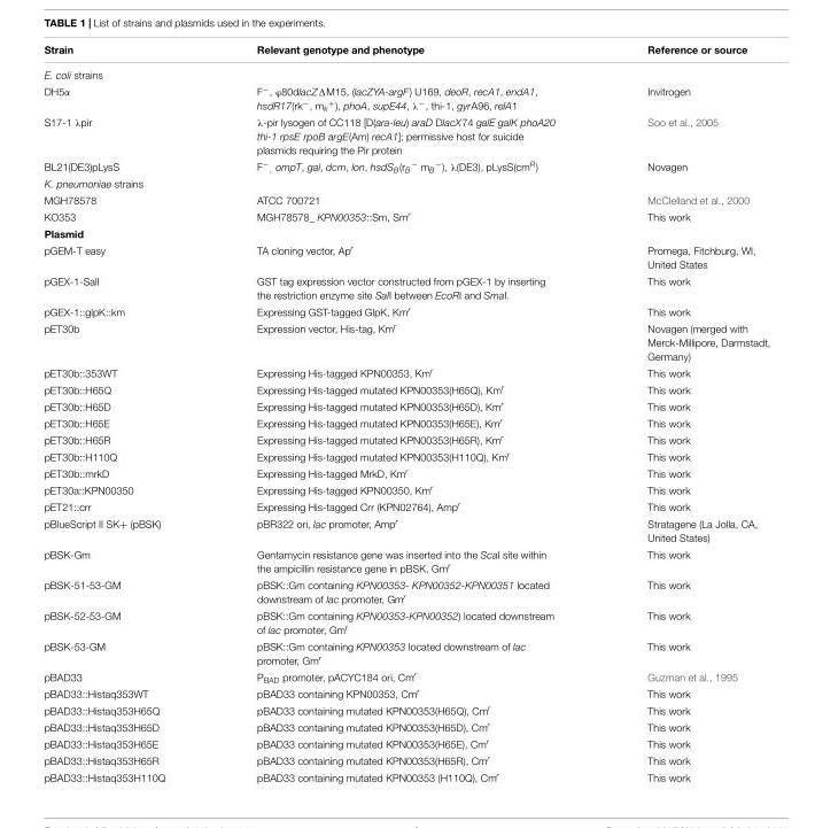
<table><thead><tr><td>Strain</td><td>Relevant genotype and phenotype</td><td>Reference or source</td></tr></thead><tbody><tr><td colspan="3">E. coli strains</td></tr><tr><td>DH5α</td><td>F−, ϕ80dlacZ�M15, (lacZYA-argF) U169, deoR, recA1, endA1, hsdR17(rk−, mk+), phoA, supE44, λ−, thi-1, gyrA96, relA1</td><td>Invitrogen</td></tr><tr><td>S17-1 λpir</td><td>λ-pir lysogen of CC118 [D(ara-leu) araD DlacX74 galE galK phoA20 thi-1 rpsE rpoB argE(Am) recA1]; permissive host for suicide plasmids requiring the Pir protein</td><td>Soo et al., 2005</td></tr><tr><td>BL21(DE3)pLysS</td><td>F−, ompT, gal, dcm, lon, hsdSB(rB− mB−), λ(DE3), pLysS(cmR)</td><td>Novagen</td></tr><tr><td colspan="3">K. pneumoniae strains</td></tr><tr><td>MGH78578</td><td>ATCC 700721</td><td>McClelland et al., 2000</td></tr><tr><td>KO353</td><td>MGH78578_ KPN00353::Sm, Sm<sup>r</sup></td><td>This work</td></tr><tr><td colspan="3">Plasmid</td></tr><tr><td>pGEM-T easy</td><td>TA cloning vector, Ap<sup>r</sup></td><td>Promega, Fitchburg, WI, United States</td></tr><tr><td>pGEX-1-SalI</td><td>GST tag expression vector constructed from pGEX-1 by inserting the restriction enzyme site SalI between EcoRI and SmaI.</td><td>This work</td></tr><tr><td>pGEX-1::glpK::km</td><td>Expressing GST-tagged GlpK, Km<sup>r</sup></td><td>This work</td></tr><tr><td>pET30b</td><td>Expression vector, His-tag, Km<sup>r</sup></td><td>Novagen (merged with Merck-Millipore, Darmstadt, Germany)</td></tr><tr><td>pET30b::353WT</td><td>Expressing His-tagged KPN00353, Km<sup>r</sup></td><td>This work</td></tr><tr><td>pET30b::H65Q</td><td>Expressing His-tagged mutated KPN00353(H65Q), Km<sup>r</sup></td><td>This work</td></tr><tr><td>pET30b::H65D</td><td>Expressing His-tagged mutated KPN00353(H65D), Km<sup>r</sup></td><td>This work</td></tr><tr><td>pET30b::H65E</td><td>Expressing His-tagged mutated KPN00353(H65E), Km<sup>r</sup></td><td>This work</td></tr><tr><td>pET30b::H65R</td><td>Expressing His-tagged mutated KPN00353(H65R), Km<sup>r</sup></td><td>This work</td></tr><tr><td>pET30b::H110Q</td><td>Expressing His-tagged mutated KPN00353(H110Q), Km<sup>r</sup></td><td>This work</td></tr><tr><td>pET30b::mrkD</td><td>Expressing His-tagged MrkD, Km<sup>r</sup></td><td>This work</td></tr><tr><td>pET30a::KPN00350</td><td>Expressing His-tagged KPN00350, Km<sup>r</sup></td><td>This work</td></tr><tr><td>pET21::crr</td><td>Expressing His-tagged Crr (KPN02764), Amp<sup>r</sup></td><td>This work</td></tr><tr><td>pBlueScript II SK+ (pBSK)</td><td>pBR322 ori, lac promoter, Amp<sup>r</sup></td><td>Stratagene (La Jolla, CA, United States)</td></tr><tr><td>pBSK-Gm</td><td>Gentamycin resistance gene was inserted into the ScaI site within the ampicillin resistance gene in pBSK, Gm<sup>r</sup></td><td>This work</td></tr><tr><td>pBSK-51-53-GM</td><td>pBSK::Gm containing KPN00353- KPN00352-KPN00351 located downstream of lac promoter, Gm<sup>r</sup></td><td>This work</td></tr><tr><td>pBSK-52-53-GM</td><td>pBSK::Gm containing KPN00353-KPN00352) located downstream of lac promoter, Gm<sup>r</sup></td><td>This work</td></tr><tr><td>pBSK-53-GM</td><td>pBSK::Gm containing KPN00353 located downstream of lac promoter, Gm<sup>r</sup></td><td>This work</td></tr><tr><td>pBAD33</td><td>P<sub>BAD</sub> promoter, pACYC184 ori, Cm<sup>r</sup></td><td>Guzman et al., 1995</td></tr><tr><td>pBAD33::Histaq353WT</td><td>pBAD33 containing KPN00353, Cm<sup>r</sup></td><td>This work</td></tr><tr><td>pBAD33::Histaq353H65Q</td><td>pBAD33 containing mutated KPN00353(H65Q), Cm<sup>r</sup></td><td>This work</td></tr><tr><td>pBAD33::Histaq353H65D</td><td>pBAD33 containing mutated KPN00353(H65D), Cm<sup>r</sup></td><td>This work</td></tr><tr><td>pBAD33::Histaq353H65E</td><td>pBAD33 containing mutated KPN00353(H65E), Cm<sup>r</sup></td><td>This work</td></tr><tr><td>pBAD33::Histaq353H65R</td><td>pBAD33 containing mutated KPN00353(H65R), Cm<sup>r</sup></td><td>This work</td></tr><tr><td>pBAD33::Histaq353H110Q</td><td>pBAD33 containing mutated KPN00353 (H110Q), Cm<sup>r</sup></td><td>This work</td></tr></tbody></table>